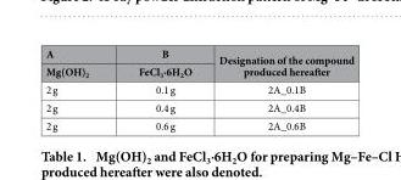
<table><thead><tr><td rowspan="2">A Mg(OH)<sub>2</sub></td><td rowspan="2">B FeCl<sub>3</sub>·6H<sub>2</sub>O</td><td rowspan="2">Designation of the compound produced hereafter</td></tr><tr></tr></thead><tbody><tr><td>2 g</td><td>0.1 g</td><td>2A_0.1B</td></tr><tr><td>2 g</td><td>0.4 g</td><td>2A_0.4B</td></tr><tr><td>2 g</td><td>0.6 g</td><td>2A_0.6B</td></tr></tbody></table>